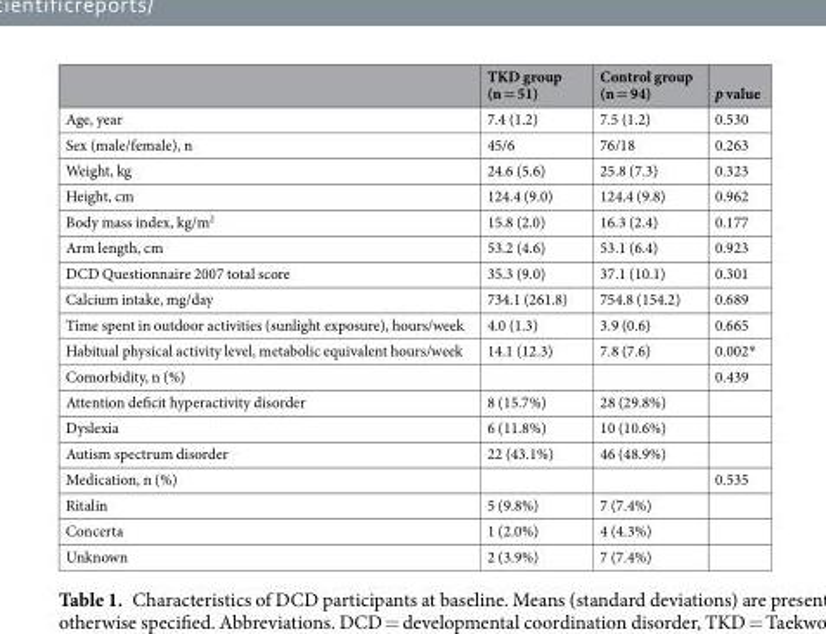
<table><thead><tr><td></td><td>TKD group (n = 51)</td><td>Control group (n = 94)</td><td>p value</td></tr></thead><tbody><tr><td>Age, year</td><td>7.4 (1.2)</td><td>7.5 (1.2)</td><td>0.530</td></tr><tr><td>Sex (male/female), n</td><td>45/6</td><td>76/18</td><td>0.263</td></tr><tr><td>Weight, kg</td><td>24.6 (5.6)</td><td>25.8 (7.3)</td><td>0.323</td></tr><tr><td>Height, cm</td><td>124.4 (9.0)</td><td>124.4 (9.8)</td><td>0.962</td></tr><tr><td>Body mass index, kg/m<sup>2</sup></td><td>15.8 (2.0)</td><td>16.3 (2.4)</td><td>0.177</td></tr><tr><td>Arm length, cm</td><td>53.2 (4.6)</td><td>53.1 (6.4)</td><td>0.923</td></tr><tr><td>DCD Questionnaire 2007 total score</td><td>35.3 (9.0)</td><td>37.1 (10.1)</td><td>0.301</td></tr><tr><td>Calcium intake, mg/day</td><td>734.1 (261.8)</td><td>754.8 (154.2)</td><td>0.689</td></tr><tr><td>Time spent in outdoor activities (sunlight exposure), hours/week</td><td>4.0 (1.3)</td><td>3.9 (0.6)</td><td>0.665</td></tr><tr><td>Habitual physical activity level, metabolic equivalent hours/week</td><td>14.1 (12.3)</td><td>7.8 (7.6)</td><td>0.002*</td></tr><tr><td>Comorbidity, n (%)</td><td></td><td></td><td>0.439</td></tr><tr><td>Attention deficit hyperactivity disorder</td><td>8 (15.7%)</td><td>28 (29.8%)</td><td></td></tr><tr><td>Dyslexia</td><td>6 (11.8%)</td><td>10 (10.6%)</td><td></td></tr><tr><td>Autism spectrum disorder</td><td>22 (43.1%)</td><td>46 (48.9%)</td><td></td></tr><tr><td>Medication, n (%)</td><td></td><td></td><td>0.535</td></tr><tr><td>Ritalin</td><td>5 (9.8%)</td><td>7 (7.4%)</td><td></td></tr><tr><td>Concerta</td><td>1 (2.0%)</td><td>4 (4.3%)</td><td></td></tr><tr><td>Unknown</td><td>2 (3.9%)</td><td>7 (7.4%)</td><td></td></tr></tbody></table>